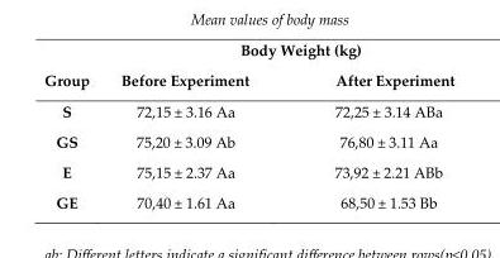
<table><thead><tr><td rowspan="2">Group</td><td colspan="2">Body Weight (kg)</td></tr><tr><td>Before Experiment</td><td>After Experiment</td></tr></thead><tbody><tr><td>S</td><td>72,15 ± 3.16 Aa</td><td>72,25 ± 3.14 ABa</td></tr><tr><td>GS</td><td>75,20 ± 3.09 Ab</td><td>76,80 ± 3.11 Aa</td></tr><tr><td>E</td><td>75,15 ± 2.37 Aa</td><td>73,92 ± 2.21 ABb</td></tr><tr><td>GE</td><td>70,40 ± 1.61 Aa</td><td>68,50 ± 1.53 Bb</td></tr></tbody></table>